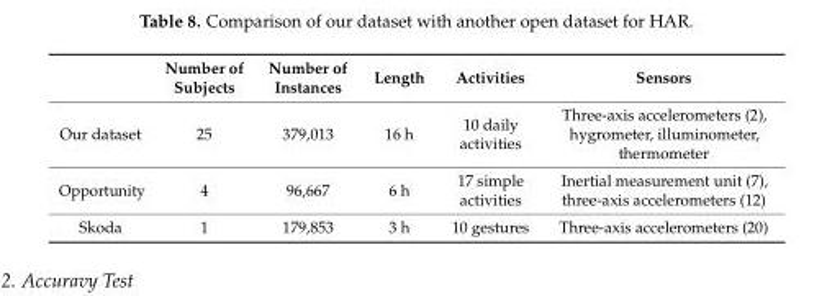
<table><thead><tr><td></td><td>Number of Subjects</td><td>Number of Instances</td><td>Length</td><td>Activities</td><td>Sensors</td></tr></thead><tbody><tr><td>Our dataset</td><td>25</td><td>379,013</td><td>16 h</td><td>10 daily activities</td><td>Three-axis accelerometers (2), hygrometer, illuminometer, thermometer</td></tr><tr><td>Opportunity</td><td>4</td><td>96,667</td><td>6 h</td><td>17 simple activities</td><td>Inertial measurement unit (7), three-axis accelerometers (12)</td></tr><tr><td>Skoda</td><td>1</td><td>179,853</td><td>3 h</td><td>10 gestures</td><td>Three-axis accelerometers (20)</td></tr></tbody></table>